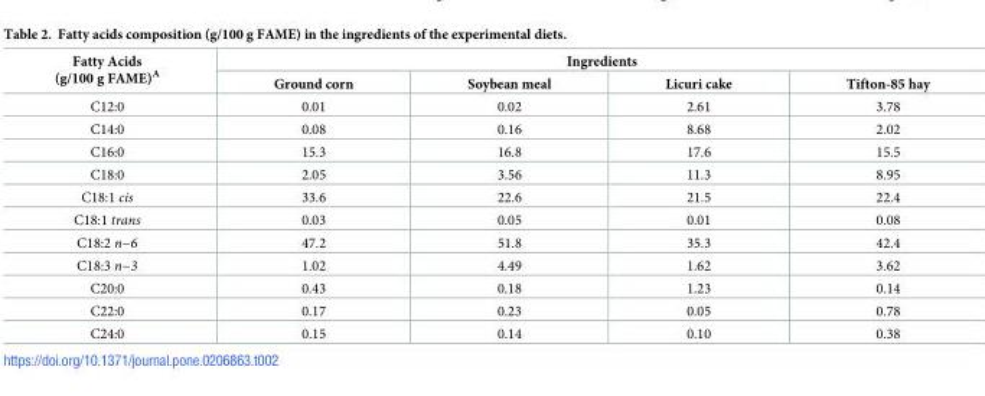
<table><thead><tr><td rowspan="2">Fatty Acids (g/100 g FAME)<sup>A</sup></td><td colspan="4">Ingredients</td></tr><tr><td>Ground corn</td><td>Soybean meal</td><td>Licuri cake</td><td>Tifton-85 hay</td></tr></thead><tbody><tr><td>C12:0</td><td>0.01</td><td>0.02</td><td>2.61</td><td>3.78</td></tr><tr><td>C14:0</td><td>0.08</td><td>0.16</td><td>8.68</td><td>2.02</td></tr><tr><td>C16:0</td><td>15.3</td><td>16.8</td><td>17.6</td><td>15.5</td></tr><tr><td>C18:0</td><td>2.05</td><td>3.56</td><td>11.3</td><td>8.95</td></tr><tr><td>C18:1 cis</td><td>33.6</td><td>22.6</td><td>21.5</td><td>22.4</td></tr><tr><td>C18:1 trans</td><td>0.03</td><td>0.05</td><td>0.01</td><td>0.08</td></tr><tr><td>C18:2 n−6</td><td>47.2</td><td>51.8</td><td>35.3</td><td>42.4</td></tr><tr><td>C18:3 n−3</td><td>1.02</td><td>4.49</td><td>1.62</td><td>3.62</td></tr><tr><td>C20:0</td><td>0.43</td><td>0.18</td><td>1.23</td><td>0.14</td></tr><tr><td>C22:0</td><td>0.17</td><td>0.23</td><td>0.05</td><td>0.78</td></tr><tr><td>C24:0</td><td>0.15</td><td>0.14</td><td>0.10</td><td>0.38</td></tr></tbody></table>